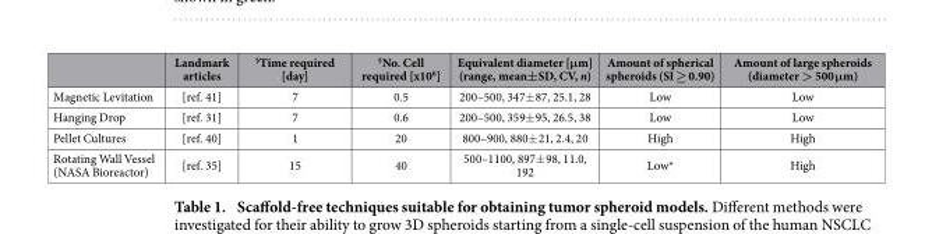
<table><thead><tr><td></td><td>Landmark articles</td><td>§Time required [day]</td><td>§No. Cell required [x10<sup>6</sup>]</td><td>Equivalent diameter [μm] (range, mean±SD, CV, n)</td><td>Amount of spherical spheroids (SI ≥ 0.90)</td><td>Amount of large spheroids (diameter &gt; 500 μm)</td></tr></thead><tbody><tr><td>Magnetic Levitation</td><td>[ref. 41]</td><td>7</td><td>0.5</td><td>200–500, 347± 87, 25.1, 28</td><td>Low</td><td>Low</td></tr><tr><td>Hanging Drop</td><td>[ref. 31]</td><td>7</td><td>0.6</td><td>200–500, 359± 95, 26.5, 38</td><td>Low</td><td>Low</td></tr><tr><td>Pellet Cultures</td><td>[ref. 40]</td><td>1</td><td>20</td><td>800–900, 880± 21, 2.4, 20</td><td>High</td><td>High</td></tr><tr><td>Rotating Wall Vessel (NASA Bioreactor)</td><td>[ref. 35]</td><td>15</td><td>40</td><td>500–1100, 897± 98, 11.0, 192</td><td>Low*</td><td>High</td></tr></tbody></table>